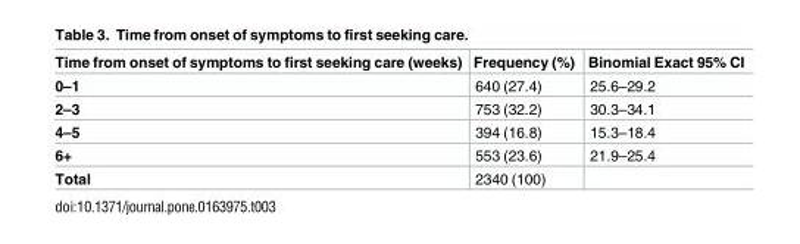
<table><thead><tr><td>Time from onset of symptoms to first seeking care (weeks)</td><td>Frequency (%)</td><td>Binomial Exact 95% CI</td></tr></thead><tbody><tr><td>0–1</td><td>640 (27.4)</td><td>25.6–29.2</td></tr><tr><td>2–3</td><td>753 (32.2)</td><td>30.3–34.1</td></tr><tr><td>4–5</td><td>394 (16.8)</td><td>15.3–18.4</td></tr><tr><td>6+</td><td>553 (23.6)</td><td>21.9–25.4</td></tr><tr><td>Total</td><td>2340 (100)</td><td></td></tr></tbody></table>